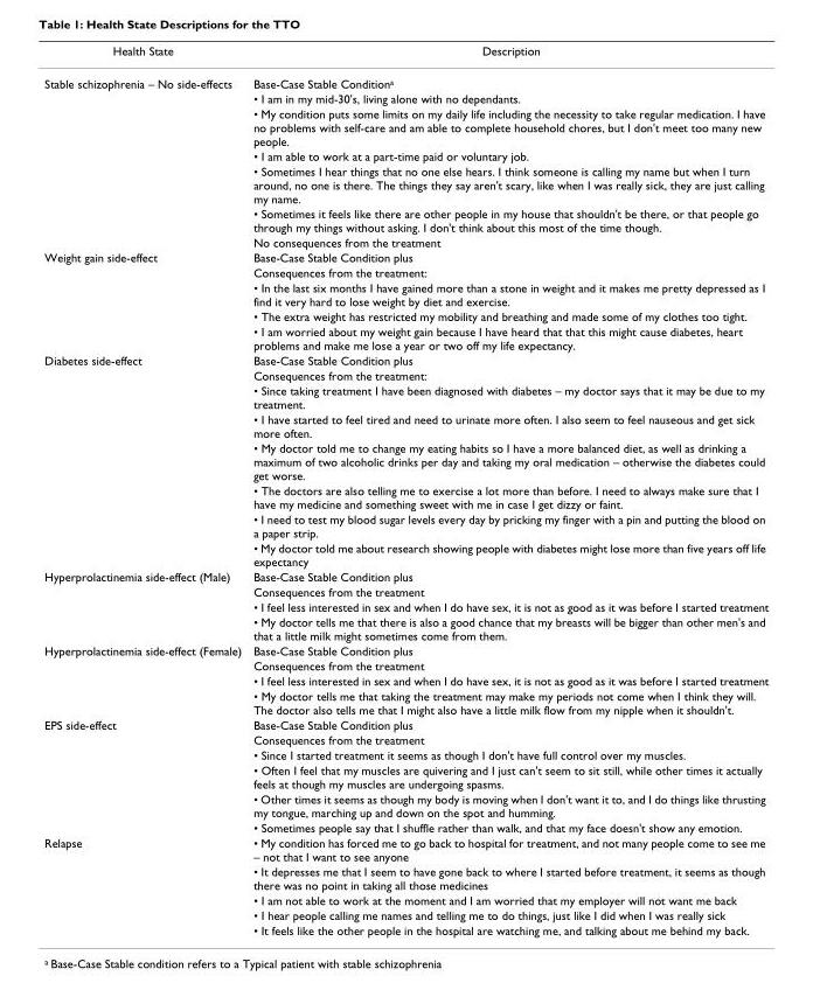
<table><thead><tr><td>Health State</td><td>Description</td></tr></thead><tbody><tr><td rowspan="7">Stable schizophrenia – No side-effects</td><td>Base-Case Stable Condition<sup>a</sup></td></tr><tr><td>• I am in my mid-30&#x27;s, living alone with no dependants.</td></tr><tr><td>• My condition puts some limits on my daily life including the necessity to take regular medication. I have no problems with self-care and am able to complete household chores, but I don&#x27;t meet too many new people.</td></tr><tr><td>• I am able to work at a part-time paid or voluntary job.</td></tr><tr><td>• Sometimes I hear things that no one else hears. I think someone is calling my name but when I turn around, no one is there. The things they say aren&#x27;t scary, like when I was really sick, they are just calling my name.</td></tr><tr><td>• Sometimes it feels like there are other people in my house that shouldn&#x27;t be there, or that people go through my things without asking. I don&#x27;t think about this most of the time though.</td></tr><tr><td>No consequences from the treatment</td></tr><tr><td rowspan="5">Weight gain side-effect</td><td>Base-Case Stable Condition plus</td></tr><tr><td>Consequences from the treatment:</td></tr><tr><td>• In the last six months I have gained more than a stone in weight and it makes me pretty depressed as I find it very hard to lose weight by diet and exercise.</td></tr><tr><td>• The extra weight has restricted my mobility and breathing and made some of my clothes too tight.</td></tr><tr><td>• I am worried about my weight gain because I have heard that that this might cause diabetes, heart problems and make me lose a year or two off my life expectancy.</td></tr><tr><td rowspan="8">Diabetes side-effect</td><td>Base-Case Stable Condition plus</td></tr><tr><td>Consequences from the treatment:</td></tr><tr><td>• Since taking treatment I have been diagnosed with diabetes – my doctor says that it may be due to my treatment.</td></tr><tr><td>• I have started to feel tired and need to urinate more often. I also seem to feel nauseous and get sick more often.</td></tr><tr><td>• My doctor told me to change my eating habits so I have a more balanced diet, as well as drinking a maximum of two alcoholic drinks per day and taking my oral medication – otherwise the diabetes could get worse.</td></tr><tr><td>• The doctors are also telling me to exercise a lot more than before. I need to always make sure that I have my medicine and something sweet with me in case I get dizzy or faint.</td></tr><tr><td>• I need to test my blood sugar levels every day by pricking my finger with a pin and putting the blood on a paper strip.</td></tr><tr><td>• My doctor told me about research showing people with diabetes might lose more than five years off life expectancy</td></tr><tr><td rowspan="4">Hyperprolactinemia side-effect (Male)</td><td>Base-Case Stable Condition plus</td></tr><tr><td>Consequences from the treatment</td></tr><tr><td>• I feel less interested in sex and when I do have sex, it is not as good as it was before I started treatment</td></tr><tr><td>• My doctor tells me that there is also a good chance that my breasts will be bigger than other men&#x27;s and that a little milk might sometimes come from them.</td></tr><tr><td rowspan="4">Hyperprolactinemia side-effect (Female)</td><td>Base-Case Stable Condition plus</td></tr><tr><td>Consequences from the treatment</td></tr><tr><td>• I feel less interested in sex and when I do have sex, it is not as good as it was before I started treatment</td></tr><tr><td>• My doctor tells me that taking the treatment may make my periods not come when I think they will. The doctor also tells me that I might also have a little milk flow from my nipple when it shouldn&#x27;t.</td></tr><tr><td rowspan="6">EPS side-effect</td><td>Base-Case Stable Condition plus</td></tr><tr><td>Consequences from the treatment</td></tr><tr><td>• Since I started treatment it seems as though I don&#x27;t have full control over my muscles.</td></tr><tr><td>• Often I feel that my muscles are quivering and I just can&#x27;t seem to sit still, while other times it actually feels at though my muscles are undergoing spasms.</td></tr><tr><td>• Other times it seems as though my body is moving when I don&#x27;t want it to, and I do things like thrusting my tongue, marching up and down on the spot and humming.</td></tr><tr><td>• Sometimes people say that I shuffle rather than walk, and that my face doesn&#x27;t show any emotion.</td></tr><tr><td rowspan="5">Relapse</td><td>• My condition has forced me to go back to hospital for treatment, and not many people come to see me – not that I want to see anyone</td></tr><tr><td>• It depresses me that I seem to have gone back to where I started before treatment, it seems as though there was no point in taking all those medicines</td></tr><tr><td>• I am not able to work at the moment and I am worried that my employer will not want me back</td></tr><tr><td>• I hear people calling me names and telling me to do things, just like I did when I was really sick</td></tr><tr><td>• It feels like the other people in the hospital are watching me, and talking about me behind my back.</td></tr></tbody></table>